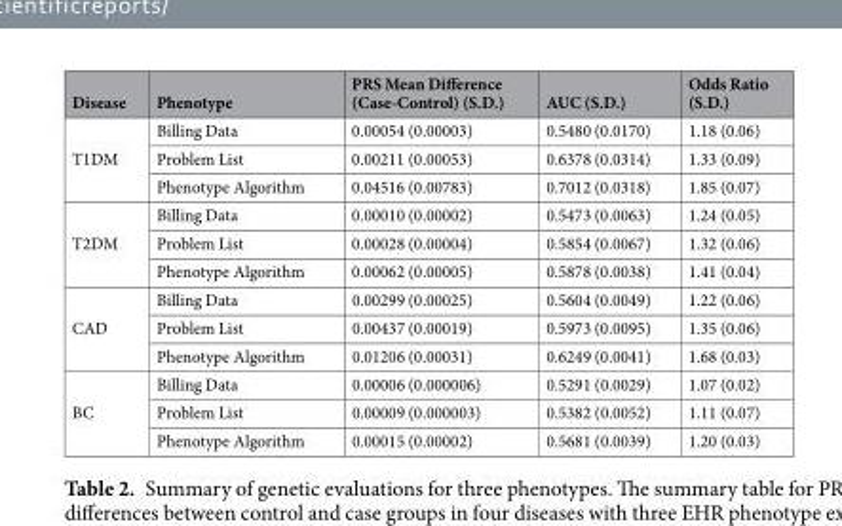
<table><thead><tr><td>Disease</td><td>Phenotype</td><td>PRS Mean Difference (Case-Control) (S.D.)</td><td>AUC (S.D.)</td><td>Odds Ratio (S.D.)</td></tr></thead><tbody><tr><td rowspan="3">T1DM</td><td>Billing Data</td><td>0.00054 (0.00003)</td><td>0.5480 (0.0170)</td><td>1.18 (0.06)</td></tr><tr><td>Problem List</td><td>0.00211 (0.00053)</td><td>0.6378 (0.0314)</td><td>1.33 (0.09)</td></tr><tr><td>Phenotype Algorithm</td><td>0.04516 (0.00783)</td><td>0.7012 (0.0318)</td><td>1.85 (0.07)</td></tr><tr><td rowspan="3">T2DM</td><td>Billing Data</td><td>0.00010 (0.00002)</td><td>0.5473 (0.0063)</td><td>1.24 (0.05)</td></tr><tr><td>Problem List</td><td>0.00028 (0.00004)</td><td>0.5854 (0.0067)</td><td>1.32 (0.06)</td></tr><tr><td>Phenotype Algorithm</td><td>0.00062 (0.00005)</td><td>0.5878 (0.0038)</td><td>1.41 (0.04)</td></tr><tr><td rowspan="3">CAD</td><td>Billing Data</td><td>0.00299 (0.00025)</td><td>0.5604 (0.0049)</td><td>1.22 (0.06)</td></tr><tr><td>Problem List</td><td>0.00437 (0.00019)</td><td>0.5973 (0.0095)</td><td>1.35 (0.06)</td></tr><tr><td>Phenotype Algorithm</td><td>0.01206 (0.00031)</td><td>0.6249 (0.0041)</td><td>1.68 (0.03)</td></tr><tr><td rowspan="3">BC</td><td>Billing Data</td><td>0.00006 (0.000006)</td><td>0.5291 (0.0029)</td><td>1.07 (0.02)</td></tr><tr><td>Problem List</td><td>0.00009 (0.000003)</td><td>0.5382 (0.0052)</td><td>1.11 (0.07)</td></tr><tr><td>Phenotype Algorithm</td><td>0.00015 (0.00002)</td><td>0.5681 (0.0039)</td><td>1.20 (0.03)</td></tr></tbody></table>